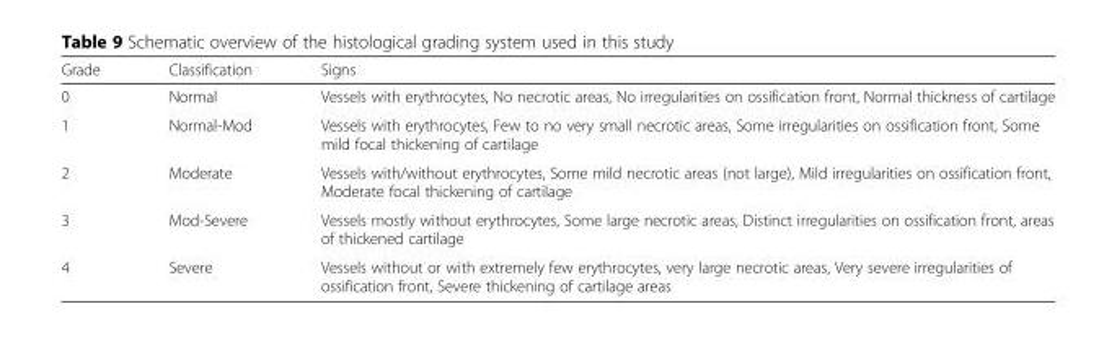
<table><thead><tr><td>Grade</td><td>Classification</td><td>Signs</td></tr></thead><tbody><tr><td>0</td><td>Normal</td><td>Vessels with erythrocytes, No necrotic areas, No irregularities on ossification front, Normal thickness of cartilage</td></tr><tr><td>1</td><td>Normal-Mod</td><td>Vessels with erythrocytes, Few to no very small necrotic areas, Some irregularities on ossification front, Some mild focal thickening of cartilage</td></tr><tr><td>2</td><td>Moderate</td><td>Vessels with/without erythrocytes, Some mild necrotic areas (not large), Mild irregularities on ossification front, Moderate focal thickening of cartilage</td></tr><tr><td>3</td><td>Mod-Severe</td><td>Vessels mostly without erythrocytes, Some large necrotic areas, Distinct irregularities on ossification front, areas of thickened cartilage</td></tr><tr><td>4</td><td>Severe</td><td>Vessels without or with extremely few erythrocytes, very large necrotic areas, Very severe irregularities of ossification front, Severe thickening of cartilage areas</td></tr></tbody></table>